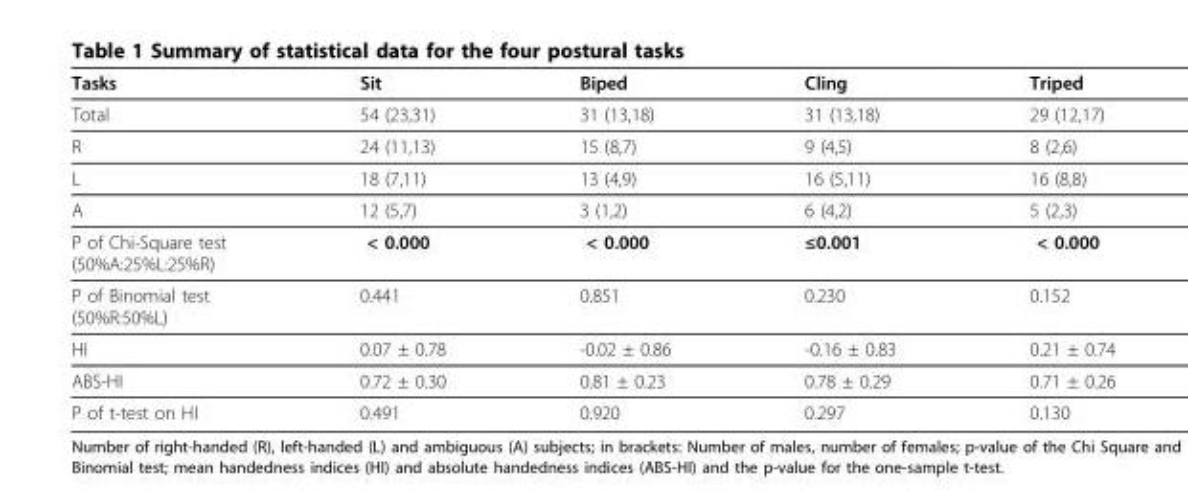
<table><thead><tr><td>Tasks</td><td>Sit</td><td>Biped</td><td>Cling</td><td>Triped</td></tr></thead><tbody><tr><td>Total</td><td>54 (23,31)</td><td>31 (13,18)</td><td>31 (13,18)</td><td>29 (12,17)</td></tr><tr><td>R</td><td>24 (11,13)</td><td>15 (8,7)</td><td>9 (4,5)</td><td>8 (2,6)</td></tr><tr><td>L</td><td>18 (7,11)</td><td>13 (4,9)</td><td>16 (5,11)</td><td>16 (8,8)</td></tr><tr><td>A</td><td>12 (5,7)</td><td>3 (1,2)</td><td>6 (4,2)</td><td>5 (2,3)</td></tr><tr><td>P of Chi-Square test (50%A:25%L:25%R)</td><td>&lt; 0.000</td><td>&lt; 0.000</td><td>≤0.001</td><td>&lt; 0.000</td></tr><tr><td>P of Binomial test (50%R:50%L)</td><td>0.441</td><td>0.851</td><td>0.230</td><td>0.152</td></tr><tr><td>HI</td><td>0.07 ± 0.78</td><td>-0.02 ± 0.86</td><td>-0.16 ± 0.83</td><td>0.21 ± 0.74</td></tr><tr><td>ABS-HI</td><td>0.72 ± 0.30</td><td>0.81 ± 0.23</td><td>0.78 ± 0.29</td><td>0.71 ± 0.26</td></tr><tr><td>P of t-test on HI</td><td>0.491</td><td>0.920</td><td>0.297</td><td>0.130</td></tr></tbody></table>